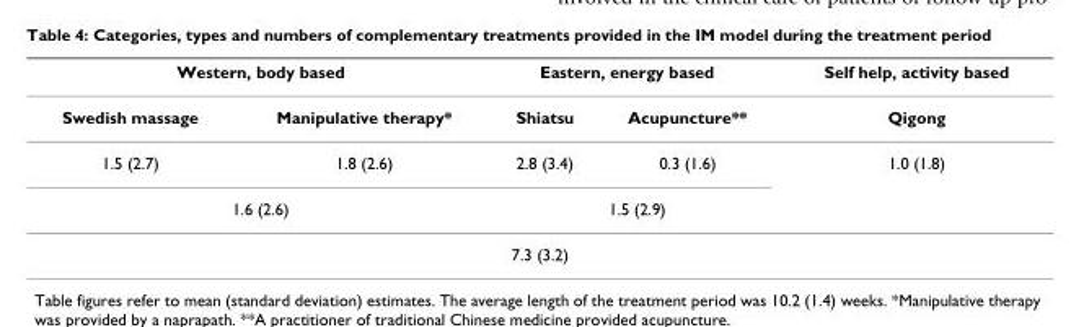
<table><thead><tr><td colspan="2">Western, body based</td><td colspan="2">Eastern, energy based</td><td rowspan="2">Self help, activity based Qigong</td></tr><tr><td>Swedish massage</td><td>Manipulative therapy*</td><td>Shiatsu</td><td>Acupuncture**</td></tr></thead><tbody><tr><td>1.5 (2.7)</td><td>1.8 (2.6)</td><td>2.8 (3.4)</td><td>0.3 (1.6)</td><td>1.0 (1.8)</td></tr><tr><td colspan="2">1.6 (2.6)</td><td colspan="2">1.5 (2.9)</td><td></td></tr><tr><td colspan="5">7.3 (3.2)</td></tr></tbody></table>